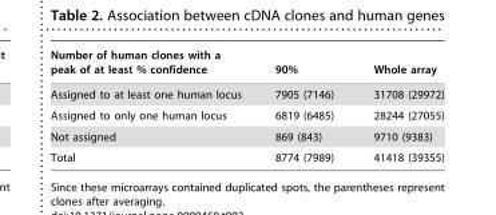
<table><thead><tr><td>Number of human clones with a peak of at least % confidence</td><td>90%</td><td>Whole array</td></tr></thead><tbody><tr><td>Assigned to at least one human locus</td><td>7905 (7146)</td><td>31708 (29972)</td></tr><tr><td>Assigned to only one human locus</td><td>6819 (6485)</td><td>28244 (27055)</td></tr><tr><td>Not assigned</td><td>869 (843)</td><td>9710 (9383)</td></tr><tr><td>Total</td><td>8774 (7989)</td><td>41418 (39355)</td></tr></tbody></table>